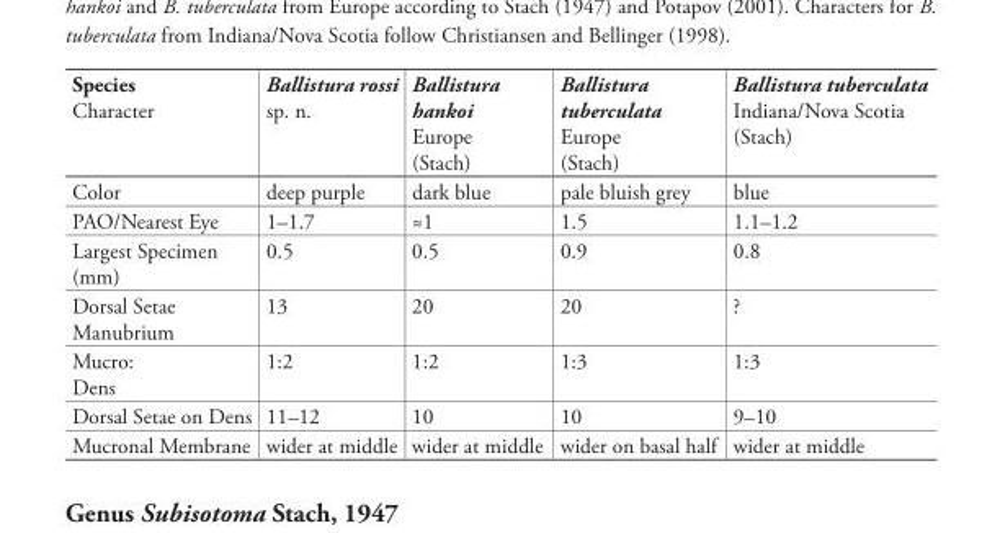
<table><thead><tr><td>Species Character</td><td>Ballistura rossi sp. n.</td><td>Ballistura hankoi Europe (Stach)</td><td>Ballistura tuberculata Europe (Stach)</td><td>Ballistura tuberculata Indiana/Nova Scotia (Stach)</td></tr></thead><tbody><tr><td>Color</td><td>deep purple</td><td>dark blue</td><td>pale bluish grey</td><td>blue</td></tr><tr><td>PAO/Nearest Eye</td><td>1–1.7</td><td>≈1</td><td>1.5</td><td>1.1–1.2</td></tr><tr><td>Largest Specimen (mm)</td><td>0.5</td><td>0.5</td><td>0.9</td><td>0.8</td></tr><tr><td>Dorsal Setae Manubrium</td><td>13</td><td>20</td><td>20</td><td>?</td></tr><tr><td>Mucro: Dens</td><td>1:2</td><td>1:2</td><td>1:3</td><td>1:3</td></tr><tr><td>Dorsal Setae on Dens</td><td>11–12</td><td>10</td><td>10</td><td>9–10</td></tr><tr><td>Mucronal Membrane</td><td>wider at middle</td><td>wider at middle</td><td>wider on basal half</td><td>wider at middle</td></tr></tbody></table>